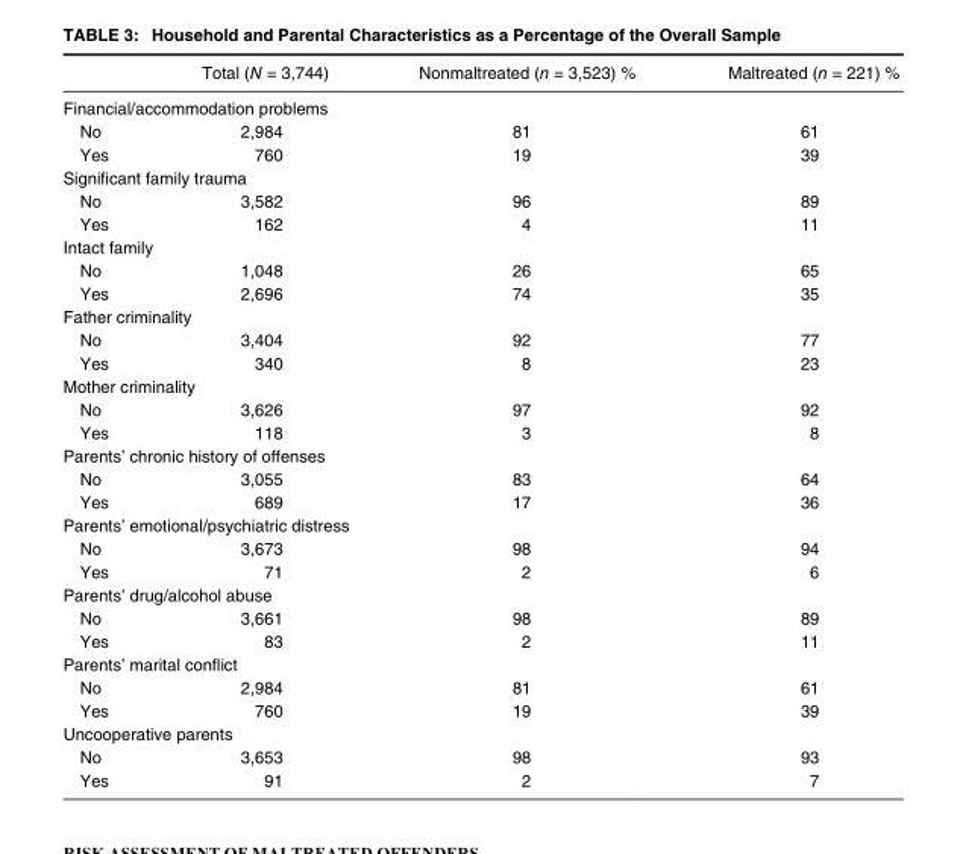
<table><thead><tr><td></td><td>Total (N = 3,744)</td><td>Nonmaltreated (n = 3,523) %</td><td>Maltreated (n = 221) %</td></tr></thead><tbody><tr><td colspan="4">Financial/accommodation problems</td></tr><tr><td>No</td><td>2,984</td><td>81</td><td>61</td></tr><tr><td>Yes</td><td>760</td><td>19</td><td>39</td></tr><tr><td colspan="4">Significant family trauma</td></tr><tr><td>No</td><td>3,582</td><td>96</td><td>89</td></tr><tr><td>Yes</td><td>162</td><td>4</td><td>11</td></tr><tr><td colspan="4">Intact family</td></tr><tr><td>No</td><td>1,048</td><td>26</td><td>65</td></tr><tr><td>Yes</td><td>2,696</td><td>74</td><td>35</td></tr><tr><td colspan="4">Father criminality</td></tr><tr><td>No</td><td>3,404</td><td>92</td><td>77</td></tr><tr><td>Yes</td><td>340</td><td>8</td><td>23</td></tr><tr><td colspan="4">Mother criminality</td></tr><tr><td>No</td><td>3,626</td><td>97</td><td>92</td></tr><tr><td>Yes</td><td>118</td><td>3</td><td>8</td></tr><tr><td colspan="4">Parents’ chronic history of offenses</td></tr><tr><td>No</td><td>3,055</td><td>83</td><td>64</td></tr><tr><td>Yes</td><td>689</td><td>17</td><td>36</td></tr><tr><td colspan="4">Parents’ emotional/psychiatric distress</td></tr><tr><td>No</td><td>3,673</td><td>98</td><td>94</td></tr><tr><td>Yes</td><td>71</td><td>2</td><td>6</td></tr><tr><td colspan="4">Parents’ drug/alcohol abuse</td></tr><tr><td>No</td><td>3,661</td><td>98</td><td>89</td></tr><tr><td>Yes</td><td>83</td><td>2</td><td>11</td></tr><tr><td colspan="4">Parents’ marital conflict</td></tr><tr><td>No</td><td>2,984</td><td>81</td><td>61</td></tr><tr><td>Yes</td><td>760</td><td>19</td><td>39</td></tr><tr><td colspan="4">Uncooperative parents</td></tr><tr><td>No</td><td>3,653</td><td>98</td><td>93</td></tr><tr><td>Yes</td><td>91</td><td>2</td><td>7</td></tr></tbody></table>